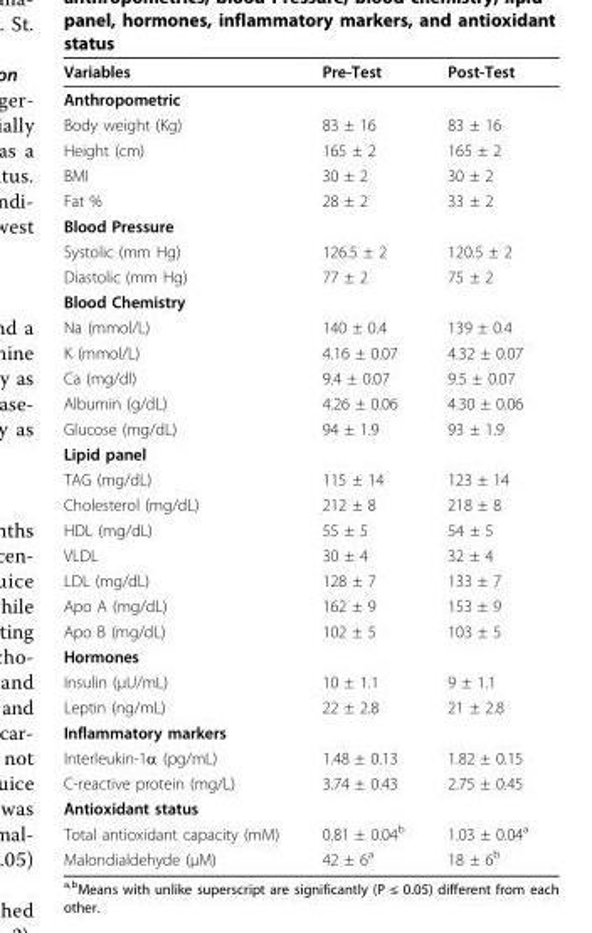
<table><thead><tr><td>Variables</td><td>Pre-Test</td><td>Post-Test</td></tr></thead><tbody><tr><td colspan="3">Anthropometric</td></tr><tr><td>Body weight (Kg)</td><td>83 ± 16</td><td>83 ± 16</td></tr><tr><td>Height (cm)</td><td>165 ± 2</td><td>165 ± 2</td></tr><tr><td>BMI</td><td>30 ± 2</td><td>30 ± 2</td></tr><tr><td>Fat %</td><td>28 ± 2</td><td>33 ± 2</td></tr><tr><td colspan="3">Blood Pressure</td></tr><tr><td>Systolic (mm Hg)</td><td>126.5 ± 2</td><td>120.5 ± 2</td></tr><tr><td>Diastolic (mm Hg)</td><td>77 ± 2</td><td>75 ± 2</td></tr><tr><td colspan="3">Blood Chemistry</td></tr><tr><td>Na (mmol/L)</td><td>140 ± 0.4</td><td>139 ± 0.4</td></tr><tr><td>K (mmol/L)</td><td>4.16 ± 0.07</td><td>4.32 ± 0.07</td></tr><tr><td>Ca (mg/dl)</td><td>9.4 ± 0.07</td><td>9.5 ± 0.07</td></tr><tr><td>Albumin (g/dL)</td><td>4.26 ± 0.06</td><td>4.30 ± 0.06</td></tr><tr><td>Glucose (mg/dL)</td><td>94 ± 1.9</td><td>93 ± 1.9</td></tr><tr><td colspan="3">Lipid panel</td></tr><tr><td>TAG (mg/dL)</td><td>115 ± 14</td><td>123 ± 14</td></tr><tr><td>Cholesterol (mg/dL)</td><td>212 ± 8</td><td>218 ± 8</td></tr><tr><td>HDL (mg/dL)</td><td>55 ± 5</td><td>54 ± 5</td></tr><tr><td>VLDL</td><td>30 ± 4</td><td>32 ± 4</td></tr><tr><td>LDL (mg/dL)</td><td>128 ± 7</td><td>133 ± 7</td></tr><tr><td>Apo A (mg/dL)</td><td>162 ± 9</td><td>153 ± 9</td></tr><tr><td>Apo B (mg/dL)</td><td>102 ± 5</td><td>103 ± 5</td></tr><tr><td colspan="3">Hormones</td></tr><tr><td>Insulin (μU/mL)</td><td>10 ± 1.1</td><td>9 ± 1.1</td></tr><tr><td>Leptin (ng/mL)</td><td>22 ± 2.8</td><td>21 ± 2.8</td></tr><tr><td colspan="3">Inflammatory markers</td></tr><tr><td>Interleukin-1α (pg/mL)</td><td>1.48 ± 0.13</td><td>1.82 ± 0.15</td></tr><tr><td>C-reactive protein (mg/L)</td><td>3.74 ± 0.43</td><td>2.75 ± 0.45</td></tr><tr><td colspan="3">Antioxidant status</td></tr><tr><td>Total antioxidant capacity (mM)</td><td>0.81 ± 0.04<sup>b</sup></td><td>1.03 ± 0.04<sup>a</sup></td></tr><tr><td>Malondialdehyde (μM)</td><td>42 ± 6<sup>a</sup></td><td>18 ± 6<sup>b</sup></td></tr></tbody></table>